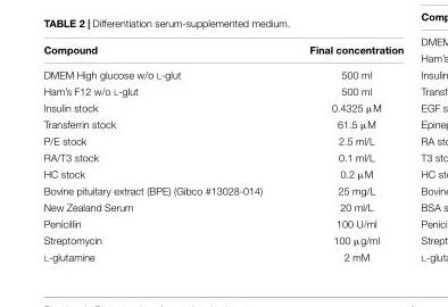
<table><thead><tr><td>Compound</td><td>Final concentration</td></tr></thead><tbody><tr><td>DMEM High glucose w/o L-glut</td><td>500 ml</td></tr><tr><td>Ham’s F12 w/o L-glut</td><td>500 ml</td></tr><tr><td>Insulin stock</td><td>0.4325 µM</td></tr><tr><td>Transferrin stock</td><td>61.5 µM</td></tr><tr><td>P/E stock</td><td>2.5 ml/L</td></tr><tr><td>RA/T3 stock</td><td>0.1 ml/L</td></tr><tr><td>HC stock</td><td>0.2 µM</td></tr><tr><td>Bovine pituitary extract (BPE) (Gibco #13028-014)</td><td>25 mg/L</td></tr><tr><td>New Zealand Serum</td><td>20 ml/L</td></tr><tr><td>Penicillin</td><td>100 U/ml</td></tr><tr><td>Streptomycin</td><td>100 µg/ml</td></tr><tr><td>L-glutamine</td><td>2 mM</td></tr></tbody></table>